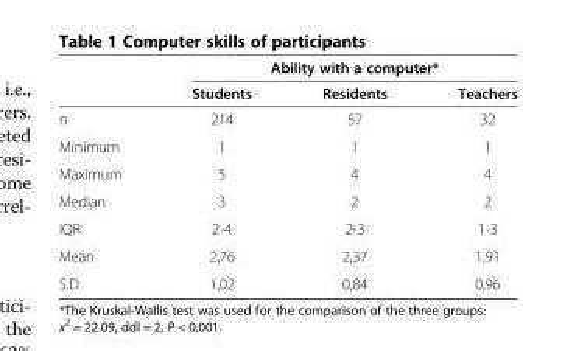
<table><thead><tr><td rowspan="2"></td><td colspan="3">Ability with a computer*</td></tr><tr><td>Students</td><td>Residents</td><td>Teachers</td></tr></thead><tbody><tr><td>n</td><td>214</td><td>57</td><td>32</td></tr><tr><td>Minimum</td><td>1</td><td>1</td><td>1</td></tr><tr><td>Maximum</td><td>5</td><td>4</td><td>4</td></tr><tr><td>Median</td><td>3</td><td>2</td><td>2</td></tr><tr><td>IQR</td><td>2-4</td><td>2-3</td><td>1-3</td></tr><tr><td>Mean</td><td>2,76</td><td>2,37</td><td>1,91</td></tr><tr><td>S.D</td><td>1,02</td><td>0,84</td><td>0,96</td></tr></tbody></table>